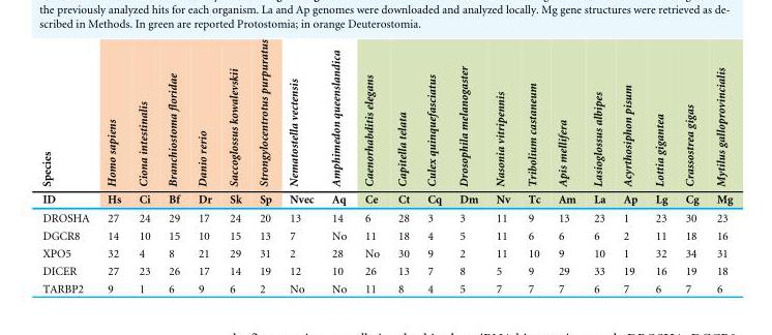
<table><thead><tr><td rowspan="2">Species ID</td><td rowspan="2">Homo sapiens Hs</td><td rowspan="2">Ciona intestinalis Ci</td><td rowspan="2">Branchiostoma floridae Bf</td><td rowspan="2">Danio rerio Dr</td><td rowspan="2">Saccoglossus kowalevskii Sk</td><td rowspan="2">Strongylocentrotus purpuratus Sp</td><td rowspan="2">Nematostella vectensis Nvec</td><td rowspan="2">Amphimedon queenslandica Aq</td><td rowspan="2">Caenorhabditis elegans Ce</td><td rowspan="2">Capitella telata Ct</td><td rowspan="2">Culex quinquefasciatus Cq</td><td rowspan="2">Drosophila melanogaster Dm</td><td rowspan="2">Nasonia vitripennis Nv</td><td rowspan="2">Tribolium castaneum Tc</td><td rowspan="2">Apis mellifera Am</td><td rowspan="2">Lasioglossus albipes La</td><td rowspan="2">Acyrthosiphon pisum Ap</td><td rowspan="2">Lottia gigantea Lg</td><td rowspan="2">Crassostrea gigas Cg</td><td rowspan="2">Mytilus galloprovincialis Mg</td></tr><tr></tr></thead><tbody><tr><td>DROSHA</td><td>27</td><td>24</td><td>29</td><td>17</td><td>24</td><td>20</td><td>13</td><td>14</td><td>6</td><td>28</td><td>3</td><td>3</td><td>11</td><td>9</td><td>13</td><td>23</td><td>1</td><td>23</td><td>30</td><td>23</td></tr><tr><td>DGCR8</td><td>14</td><td>10</td><td>15</td><td>10</td><td>15</td><td>13</td><td>7</td><td>No</td><td>11</td><td>18</td><td>4</td><td>5</td><td>11</td><td>6</td><td>6</td><td>6</td><td>2</td><td>11</td><td>18</td><td>16</td></tr><tr><td>XPO5</td><td>32</td><td>4</td><td>8</td><td>21</td><td>29</td><td>31</td><td>2</td><td>28</td><td>No</td><td>30</td><td>9</td><td>2</td><td>11</td><td>10</td><td>9</td><td>10</td><td>1</td><td>32</td><td>34</td><td>31</td></tr><tr><td>DICER</td><td>27</td><td>23</td><td>26</td><td>17</td><td>14</td><td>19</td><td>12</td><td>10</td><td>26</td><td>13</td><td>7</td><td>8</td><td>5</td><td>9</td><td>29</td><td>33</td><td>19</td><td>16</td><td>19</td><td>18</td></tr><tr><td>TARBP2</td><td>9</td><td>1</td><td>6</td><td>9</td><td>6</td><td>2</td><td>No</td><td>No</td><td>11</td><td>8</td><td>4</td><td>5</td><td>7</td><td>7</td><td>7</td><td>6</td><td>7</td><td>6</td><td>7</td><td>6</td></tr></tbody></table>